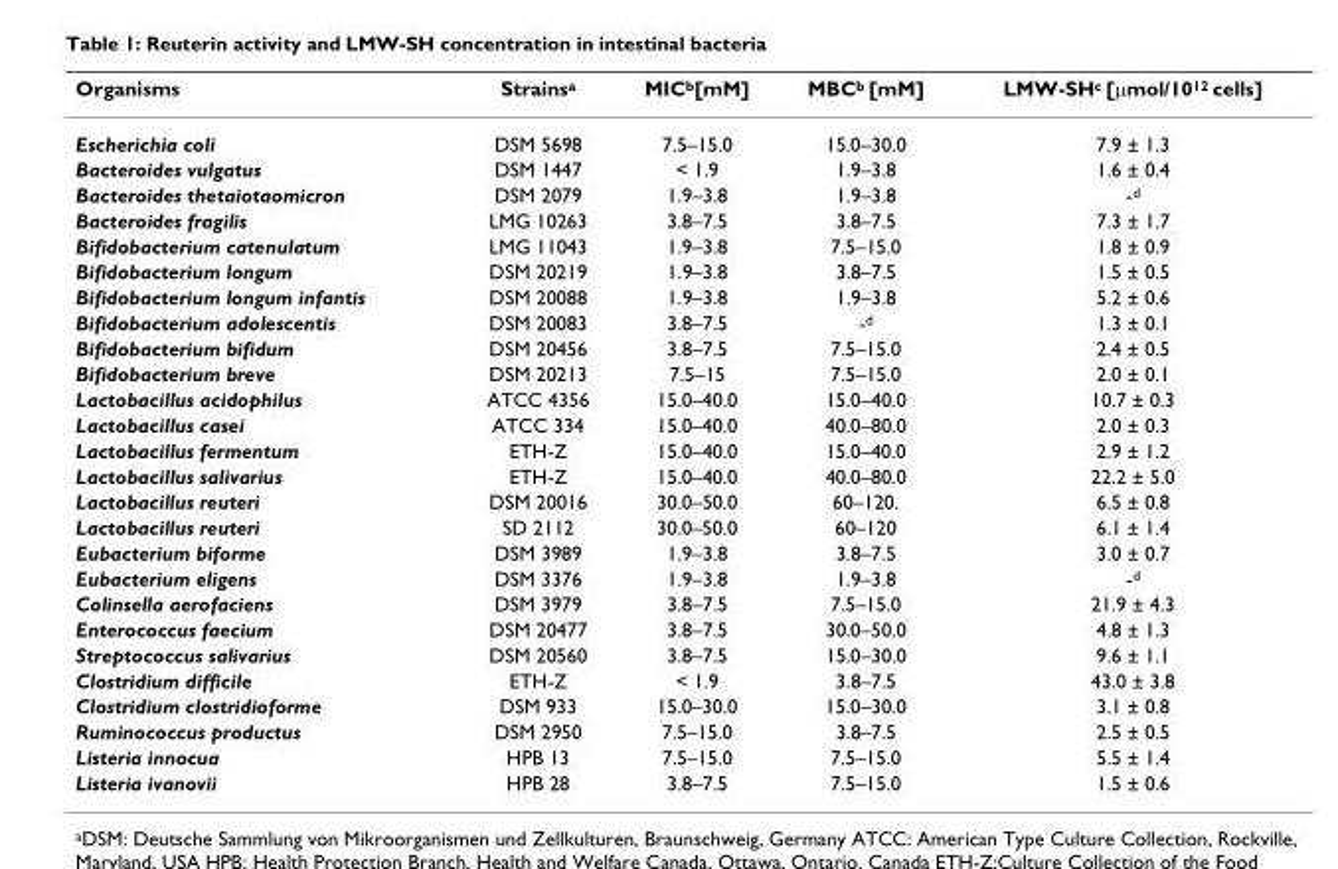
<table><thead><tr><td>Organisms</td><td>Strains<sup>a</sup></td><td>MIC<sup>b</sup>[mM]</td><td>MBC<sup>b</sup> [mM]</td><td>LMW-SH<sup>c</sup> [μmol/10<sup>12</sup> cells]</td></tr></thead><tbody><tr><td>Escherichia coli</td><td>DSM 5698</td><td>7.5–15.0</td><td>15.0–30.0</td><td>7.9 ± 1.3</td></tr><tr><td>Bacteroides vulgatus</td><td>DSM 1447</td><td>&lt; 1.9</td><td>1.9–3.8</td><td>1.6 ± 0.4</td></tr><tr><td>Bacteroides thetaiotaomicron</td><td>DSM 2079</td><td>1.9–3.8</td><td>1.9–3.8</td><td>-<sup>d</sup></td></tr><tr><td>Bacteroides fragilis</td><td>LMG 10263</td><td>3.8–7.5</td><td>3.8–7.5</td><td>7.3 ± 1.7</td></tr><tr><td>Bifidobacterium catenulatum</td><td>LMG 11043</td><td>1.9–3.8</td><td>7.5–15.0</td><td>1.8 ± 0.9</td></tr><tr><td>Bifidobacterium longum</td><td>DSM 20219</td><td>1.9–3.8</td><td>3.8–7.5</td><td>1.5 ± 0.5</td></tr><tr><td>Bifidobacterium longum infantis</td><td>DSM 20088</td><td>1.9–3.8</td><td>1.9–3.8</td><td>5.2 ± 0.6</td></tr><tr><td>Bifidobacterium adolescentis</td><td>DSM 20083</td><td>3.8–7.5</td><td>-<sup>d</sup></td><td>1.3 ± 0.1</td></tr><tr><td>Bifidobacterium bifidum</td><td>DSM 20456</td><td>3.8–7.5</td><td>7.5–15.0</td><td>2.4 ± 0.5</td></tr><tr><td>Bifidobacterium breve</td><td>DSM 20213</td><td>7.5–15</td><td>7.5–15.0</td><td>2.0 ± 0.1</td></tr><tr><td>Lactobacillus acidophilus</td><td>ATCC 4356</td><td>15.0–40.0</td><td>15.0–40.0</td><td>10.7 ± 0.3</td></tr><tr><td>Lactobacillus casei</td><td>ATCC 334</td><td>15.0–40.0</td><td>40.0–80.0</td><td>2.0 ± 0.3</td></tr><tr><td>Lactobacillus fermentum</td><td>ETH-Z</td><td>15.0–40.0</td><td>15.0–40.0</td><td>2.9 ± 1.2</td></tr><tr><td>Lactobacillus salivarius</td><td>ETH-Z</td><td>15.0–40.0</td><td>40.0–80.0</td><td>22.2 ± 5.0</td></tr><tr><td>Lactobacillus reuteri</td><td>DSM 20016</td><td>30.0–50.0</td><td>60–120.</td><td>6.5 ± 0.8</td></tr><tr><td>Lactobacillus reuteri</td><td>SD 2112</td><td>30.0–50.0</td><td>60–120</td><td>6.1 ± 1.4</td></tr><tr><td>Eubacterium biforme</td><td>DSM 3989</td><td>1.9–3.8</td><td>3.8–7.5</td><td>3.0 ± 0.7</td></tr><tr><td>Eubacterium eligens</td><td>DSM 3376</td><td>1.9–3.8</td><td>1.9–3.8</td><td>-<sup>d</sup></td></tr><tr><td>Colinsella aerofaciens</td><td>DSM 3979</td><td>3.8–7.5</td><td>7.5–15.0</td><td>21.9 ± 4.3</td></tr><tr><td>Enterococcus faecium</td><td>DSM 20477</td><td>3.8–7.5</td><td>30.0–50.0</td><td>4.8 ± 1.3</td></tr><tr><td>Streptococcus salivarius</td><td>DSM 20560</td><td>3.8–7.5</td><td>15.0–30.0</td><td>9.6 ± 1.1</td></tr><tr><td>Clostridium difficile</td><td>ETH-Z</td><td>&lt; 1.9</td><td>3.8–7.5</td><td>43.0 ± 3.8</td></tr><tr><td>Clostridium clostridioforme</td><td>DSM 933</td><td>15.0–30.0</td><td>15.0–30.0</td><td>3.1 ± 0.8</td></tr><tr><td>Ruminococcus productus</td><td>DSM 2950</td><td>7.5–15.0</td><td>3.8–7.5</td><td>2.5 ± 0.5</td></tr><tr><td>Listeria innocua</td><td>HPB 13</td><td>7.5–15.0</td><td>7.5–15.0</td><td>5.5 ± 1.4</td></tr><tr><td>Listeria ivanovii</td><td>HPB 28</td><td>3.8–7.5</td><td>7.5–15.0</td><td>1.5 ± 0.6</td></tr></tbody></table>